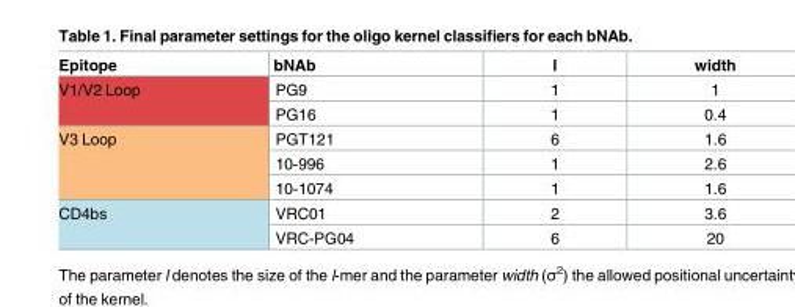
<table><thead><tr><td>Epitope</td><td>bNAb</td><td>l</td><td>width</td></tr></thead><tbody><tr><td rowspan="2">V1/V2 Loop</td><td>PG9</td><td>1</td><td>1</td></tr><tr><td>PG16</td><td>1</td><td>0.4</td></tr><tr><td rowspan="3">V3 Loop</td><td>PGT121</td><td>6</td><td>1.6</td></tr><tr><td>10-996</td><td>1</td><td>2.6</td></tr><tr><td>10-1074</td><td>1</td><td>1.6</td></tr><tr><td rowspan="2">CD4bs</td><td>VRC01</td><td>2</td><td>3.6</td></tr><tr><td>VRC-PG04</td><td>6</td><td>20</td></tr></tbody></table>